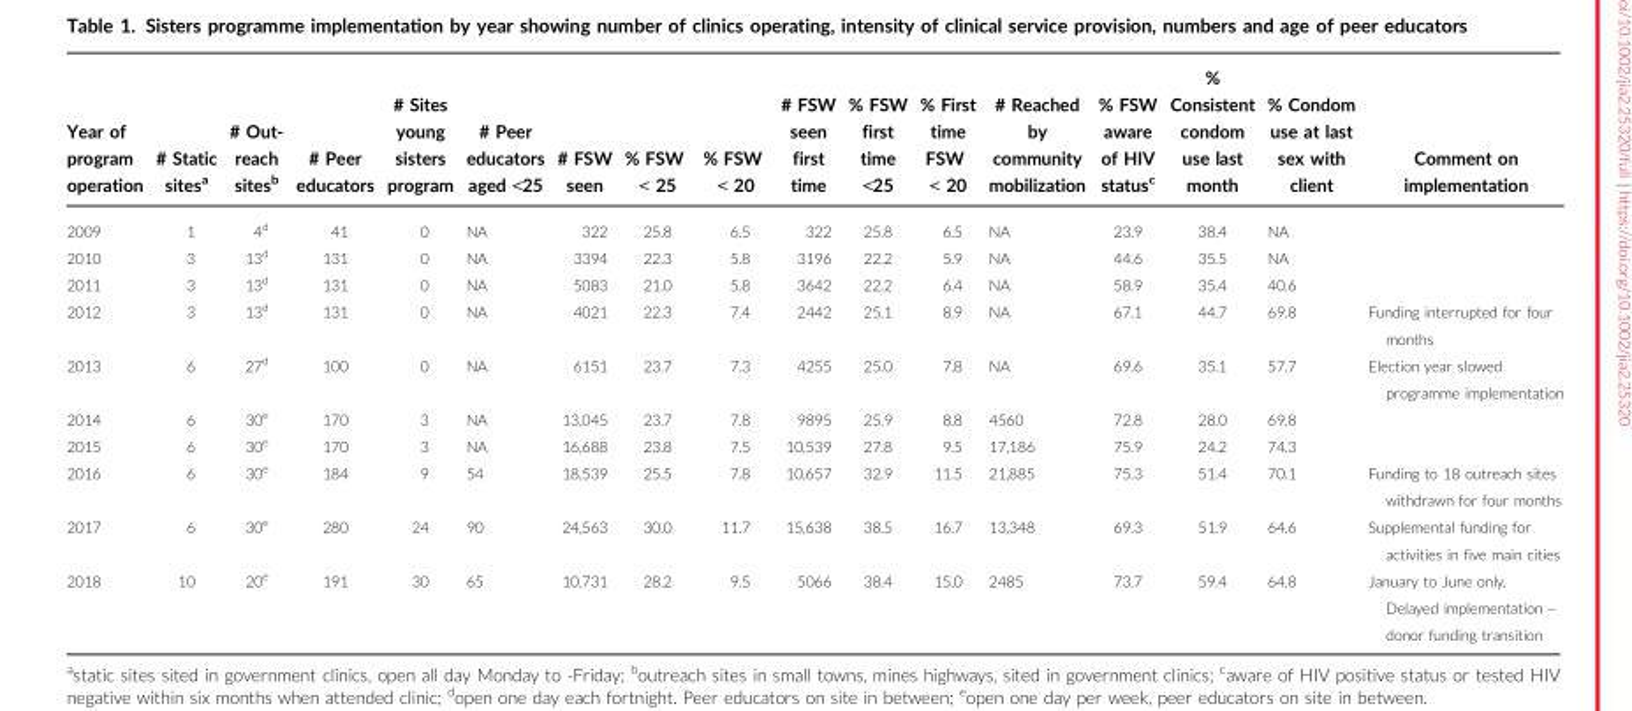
<table><thead><tr><td>Year of program operation</td><td># Static sites<sup>a</sup></td><td># Out- reach sites<sup>b</sup></td><td># Peer educators</td><td># Sites young sisters program</td><td># Peer educators aged &lt;25</td><td># FSW seen</td><td>% FSW &lt; 25</td><td>% FSW &lt; 20</td><td># FSW seen first time</td><td>% FSW first time &lt;25</td><td>% First time FSW &lt; 20</td><td># Reached by community mobilization</td><td>% FSW aware of HIV status<sup>c</sup></td><td>% Consistent condom use last month</td><td>% Condom use at last sex with client</td><td>Comment on implementation</td></tr></thead><tbody><tr><td>2009</td><td>1</td><td>4<sup>d</sup></td><td>41</td><td>0</td><td>NA</td><td>322</td><td>25.8</td><td>6.5</td><td>322</td><td>25.8</td><td>6.5</td><td>NA</td><td>23.9</td><td>38.4</td><td>NA</td><td></td></tr><tr><td>2010</td><td>3</td><td>13<sup>d</sup></td><td>131</td><td>0</td><td>NA</td><td>3394</td><td>22.3</td><td>5.8</td><td>3196</td><td>22.2</td><td>5.9</td><td>NA</td><td>44.6</td><td>35.5</td><td>NA</td><td></td></tr><tr><td>2011</td><td>3</td><td>13<sup>d</sup></td><td>131</td><td>0</td><td>NA</td><td>5083</td><td>21.0</td><td>5.8</td><td>3642</td><td>22.2</td><td>6.4</td><td>NA</td><td>58.9</td><td>35.4</td><td>40.6</td><td></td></tr><tr><td>2012</td><td>3</td><td>13<sup>d</sup></td><td>131</td><td>0</td><td>NA</td><td>4021</td><td>22.3</td><td>7.4</td><td>2442</td><td>25.1</td><td>8.9</td><td>NA</td><td>67.1</td><td>44.7</td><td>69.8</td><td>Funding interrupted for four months</td></tr><tr><td>2013</td><td>6</td><td>27<sup>d</sup></td><td>100</td><td>0</td><td>NA</td><td>6151</td><td>23.7</td><td>7.3</td><td>4255</td><td>25.0</td><td>7.8</td><td>NA</td><td>69.6</td><td>35.1</td><td>57.7</td><td>Election year slowed programme implementation</td></tr><tr><td>2014</td><td>6</td><td>30<sup>e</sup></td><td>170</td><td>3</td><td>NA</td><td>13,045</td><td>23.7</td><td>7.8</td><td>9895</td><td>25.9</td><td>8.8</td><td>4560</td><td>72.8</td><td>28.0</td><td>69.8</td><td></td></tr><tr><td>2015</td><td>6</td><td>30<sup>e</sup></td><td>170</td><td>3</td><td>NA</td><td>16,688</td><td>23.8</td><td>7.5</td><td>10,539</td><td>27.8</td><td>9.5</td><td>17,186</td><td>75.9</td><td>24.2</td><td>74.3</td><td></td></tr><tr><td>2016</td><td>6</td><td>30<sup>e</sup></td><td>184</td><td>9</td><td>54</td><td>18,539</td><td>25.5</td><td>7.8</td><td>10,657</td><td>32.9</td><td>11.5</td><td>21,885</td><td>75.3</td><td>51.4</td><td>70.1</td><td>Funding to 18 outreach sites withdrawn for four months</td></tr><tr><td>2017</td><td>6</td><td>30<sup>e</sup></td><td>280</td><td>24</td><td>90</td><td>24,563</td><td>30.0</td><td>11.7</td><td>15,638</td><td>38.5</td><td>16.7</td><td>13,348</td><td>69.3</td><td>51.9</td><td>64.6</td><td>Supplemental funding for activities in five main cities</td></tr><tr><td>2018</td><td>10</td><td>20<sup>e</sup></td><td>191</td><td>30</td><td>65</td><td>10,731</td><td>28.2</td><td>9.5</td><td>5066</td><td>38.4</td><td>15.0</td><td>2485</td><td>73.7</td><td>59.4</td><td>64.8</td><td>January to June only. Delayed implementation – donor funding transition</td></tr></tbody></table>